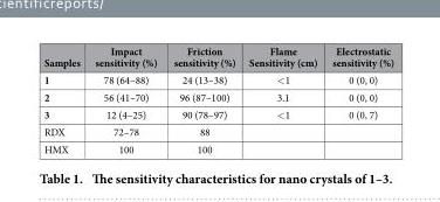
<table><thead><tr><td>Samples</td><td>Impact sensitivity (%)</td><td>Friction sensitivity (%)</td><td>Flame Sensitivity (cm)</td><td>Electrostatic sensitivity (%)</td></tr></thead><tbody><tr><td>1</td><td>78 (64–88)</td><td>24 (13–38)</td><td>&lt; 1</td><td>0 (0, 0)</td></tr><tr><td>2</td><td>56 (41–70)</td><td>96 (87–100)</td><td>3.1</td><td>0 (0, 0)</td></tr><tr><td>3</td><td>12 (4–25)</td><td>90 (78–97)</td><td>&lt; 1</td><td>0 (0, 7)</td></tr><tr><td>RDX</td><td>72–78</td><td>88</td><td></td><td></td></tr><tr><td>HMX</td><td>100</td><td>100</td><td></td><td></td></tr></tbody></table>